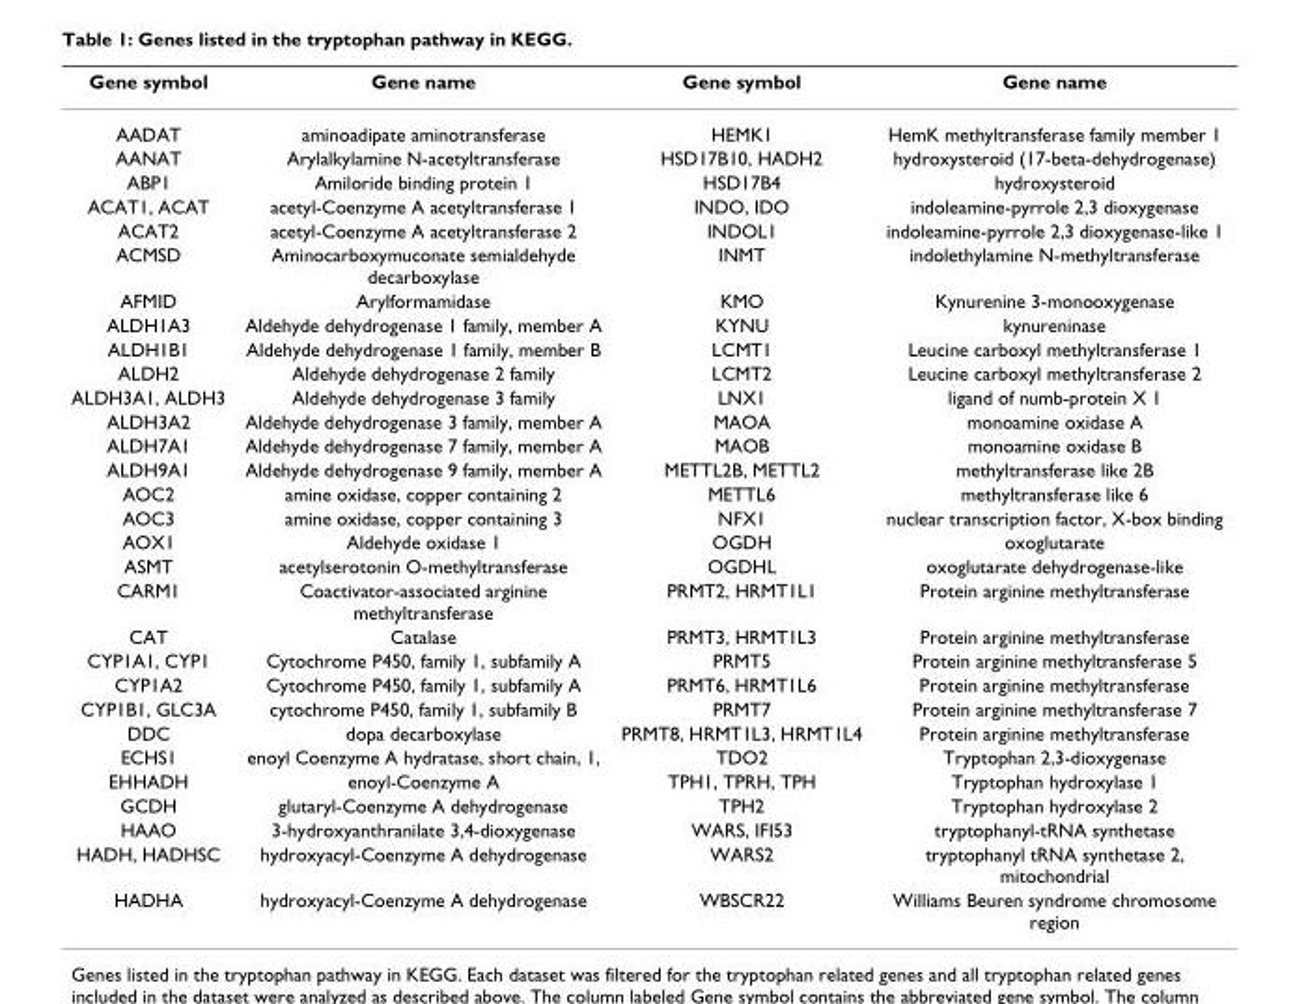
<table><thead><tr><td>Gene symbol</td><td>Gene name</td><td>Gene symbol</td><td>Gene name</td></tr></thead><tbody><tr><td>AADAT</td><td>aminoadipate aminotransferase</td><td>HEMK1</td><td>HemK methyltransferase family member 1</td></tr><tr><td>AANAT</td><td>Arylalkylamine N-acetyltransferase</td><td>HSD17B10, HADH2</td><td>hydroxysteroid (17-beta-dehydrogenase)</td></tr><tr><td>ABP1</td><td>Amiloride binding protein 1</td><td>HSD17B4</td><td>hydroxysteroid</td></tr><tr><td>ACAT1, ACAT</td><td>acetyl-Coenzyme A acetyltransferase 1</td><td>INDO, IDO</td><td>indoleamine-pyrrole 2,3 dioxygenase</td></tr><tr><td>ACAT2</td><td>acetyl-Coenzyme A acetyltransferase 2</td><td>INDOL1</td><td>indoleamine-pyrrole 2,3 dioxygenase-like 1</td></tr><tr><td>ACMSD</td><td>Aminocarboxymuconate semialdehyde decarboxylase</td><td>INMT</td><td>indolethylamine N-methyltransferase</td></tr><tr><td>AFMID</td><td>Arylformamidase</td><td>KMO</td><td>Kynurenine 3-monooxygenase</td></tr><tr><td>ALDH1A3</td><td>Aldehyde dehydrogenase 1 family, member A</td><td>KYNU</td><td>kynureninase</td></tr><tr><td>ALDH1B1</td><td>Aldehyde dehydrogenase 1 family, member B</td><td>LCMT1</td><td>Leucine carboxyl methyltransferase 1</td></tr><tr><td>ALDH2</td><td>Aldehyde dehydrogenase 2 family</td><td>LCMT2</td><td>Leucine carboxyl methyltransferase 2</td></tr><tr><td>ALDH3A1, ALDH3</td><td>Aldehyde dehydrogenase 3 family</td><td>LNX1</td><td>ligand of numb-protein X 1</td></tr><tr><td>ALDH3A2</td><td>Aldehyde dehydrogenase 3 family, member A</td><td>MAOA</td><td>monoamine oxidase A</td></tr><tr><td>ALDH7A1</td><td>Aldehyde dehydrogenase 7 family, member A</td><td>MAOB</td><td>monoamine oxidase B</td></tr><tr><td>ALDH9A1</td><td>Aldehyde dehydrogenase 9 family, member A</td><td>METTL2B, METTL2</td><td>methyltransferase like 2B</td></tr><tr><td>AOC2</td><td>amine oxidase, copper containing 2</td><td>METTL6</td><td>methyltransferase like 6</td></tr><tr><td>AOC3</td><td>amine oxidase, copper containing 3</td><td>NFX1</td><td>nuclear transcription factor, X-box binding</td></tr><tr><td>AOX1</td><td>Aldehyde oxidase 1</td><td>OGDH</td><td>oxoglutarate</td></tr><tr><td>ASMT</td><td>acetylserotonin O-methyltransferase</td><td>OGDHL</td><td>oxoglutarate dehydrogenase-like</td></tr><tr><td>CARM1</td><td>Coactivator-associated arginine methyltransferase</td><td>PRMT2, HRMT1L1</td><td>Protein arginine methyltransferase</td></tr><tr><td>CAT</td><td>Catalase</td><td>PRMT3, HRMT1L3</td><td>Protein arginine methyltransferase</td></tr><tr><td>CYP1A1, CYP1</td><td>Cytochrome P450, family 1, subfamily A</td><td>PRMT5</td><td>Protein arginine methyltransferase 5</td></tr><tr><td>CYP1A2</td><td>Cytochrome P450, family 1, subfamily A</td><td>PRMT6, HRMT1L6</td><td>Protein arginine methyltransferase</td></tr><tr><td>CYP1B1, GLC3A</td><td>cytochrome P450, family 1, subfamily B</td><td>PRMT7</td><td>Protein arginine methyltransferase 7</td></tr><tr><td>DDC</td><td>dopa decarboxylase</td><td>PRMT8, HRMT1L3, HRMT1L4</td><td>Protein arginine methyltransferase</td></tr><tr><td>ECHS1</td><td>enoyl Coenzyme A hydratase, short chain, 1,</td><td>TDO2</td><td>Tryptophan 2,3-dioxygenase</td></tr><tr><td>EHHADH</td><td>enoyl-Coenzyme A</td><td>TPH1, TPRH, TPH</td><td>Tryptophan hydroxylase 1</td></tr><tr><td>GCDH</td><td>glutaryl-Coenzyme A dehydrogenase</td><td>TPH2</td><td>Tryptophan hydroxylase 2</td></tr><tr><td>HAAO</td><td>3-hydroxyanthranilate 3,4-dioxygenase</td><td>WARS, IFI53</td><td>tryptophanyl-tRNA synthetase</td></tr><tr><td>HADH, HADHSC</td><td>hydroxyacyl-Coenzyme A dehydrogenase</td><td>WARS2</td><td>tryptophanyl tRNA synthetase 2, mitochondrial</td></tr><tr><td>HADHA</td><td>hydroxyacyl-Coenzyme A dehydrogenase</td><td>WBSCR22</td><td>Williams Beuren syndrome chromosome region</td></tr></tbody></table>